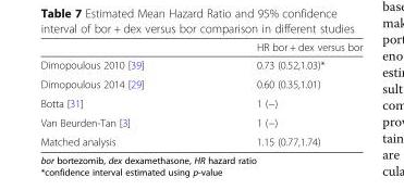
<table><thead><tr><td></td><td>HR bor + dex versus bor</td></tr></thead><tbody><tr><td>Dimopoulous 2010 [39]</td><td>0.73 (0.52,1.03)*</td></tr><tr><td>Dimopoulous 2014 [29]</td><td>0.60 (0.35,1.01)</td></tr><tr><td>Botta [31]</td><td>1 (−)</td></tr><tr><td>Van Beurden-Tan [3]</td><td>1 (−)</td></tr><tr><td>Matched analysis</td><td>1.15 (0.77,1.74)</td></tr></tbody></table>